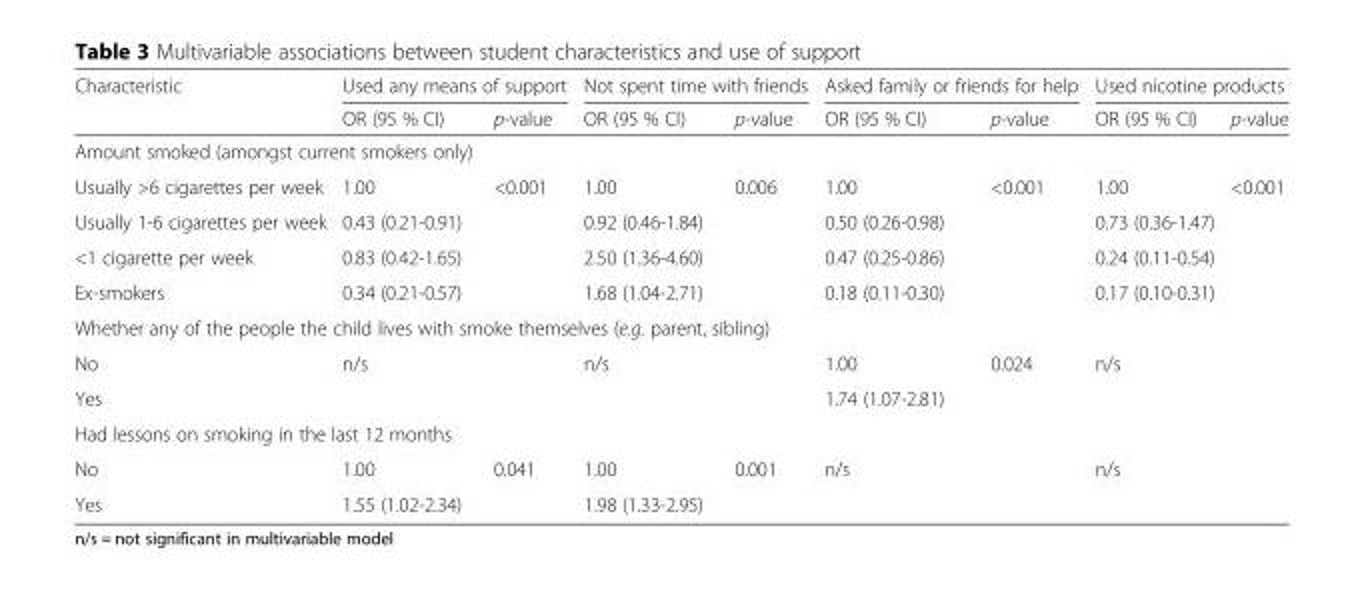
<table><thead><tr><td rowspan="2">Characteristic</td><td colspan="2">Used any means of support</td><td colspan="2">Not spent time with friends</td><td colspan="2">Asked family or friends for help</td><td colspan="2">Used nicotine products</td></tr><tr><td>OR (95 % CI)</td><td>p-value</td><td>OR (95 % CI)</td><td>p-value</td><td>OR (95 % CI)</td><td>p-value</td><td>OR (95 % CI)</td><td>p-value</td></tr></thead><tbody><tr><td colspan="9">Amount smoked (amongst current smokers only)</td></tr><tr><td>Usually &gt;6 cigarettes per week</td><td>1.00</td><td rowspan="4">&lt;0.001</td><td>1.00</td><td rowspan="4">0.006</td><td>1.00</td><td rowspan="4">&lt;0.001</td><td>1.00</td><td rowspan="4">&lt;0.001</td></tr><tr><td>Usually 1-6 cigarettes per week</td><td>0.43 (0.21-0.91)</td><td>0.92 (0.46-1.84)</td><td>0.50 (0.26-0.98)</td><td>0.73 (0.36-1.47)</td></tr><tr><td>&lt;1 cigarette per week</td><td>0.83 (0.42-1.65)</td><td>2.50 (1.36-4.60)</td><td>0.47 (0.25-0.86)</td><td>0.24 (0.11-0.54)</td></tr><tr><td>Ex-smokers</td><td>0.34 (0.21-0.57)</td><td>1.68 (1.04-2.71)</td><td>0.18 (0.11-0.30)</td><td>0.17 (0.10-0.31)</td></tr><tr><td colspan="9">Whether any of the people the child lives with smoke themselves (e.g. parent, sibling)</td></tr><tr><td>No</td><td rowspan="2" colspan="2">n/s</td><td rowspan="2" colspan="2">n/s</td><td>1.00</td><td rowspan="2">0.024</td><td rowspan="2" colspan="2">n/s</td></tr><tr><td>Yes</td><td>1.74 (1.07-2.81)</td></tr><tr><td colspan="9">Had lessons on smoking in the last 12 months</td></tr><tr><td>No</td><td>1.00</td><td rowspan="2">0.041</td><td>1.00</td><td rowspan="2">0.001</td><td rowspan="2" colspan="2">n/s</td><td rowspan="2" colspan="2">n/s</td></tr><tr><td>Yes</td><td>1.55 (1.02-2.34)</td><td>1.98 (1.33-2.95)</td></tr></tbody></table>